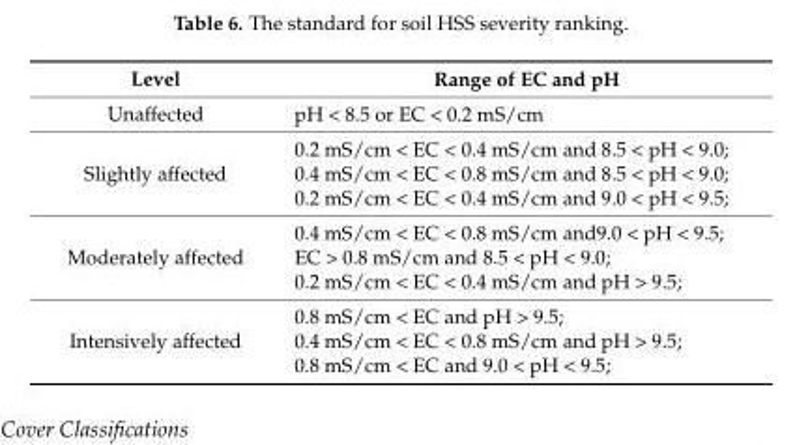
<table><thead><tr><td>Level</td><td>Range of EC and pH</td></tr></thead><tbody><tr><td>Unaffected</td><td>pH &lt; 8.5 or EC &lt; 0.2 mS/cm</td></tr><tr><td>Slightly affected</td><td>0.2 mS/cm &lt; EC &lt; 0.4 mS/cm and 8.5 &lt; pH &lt; 9.0; 0.4 mS/cm &lt; EC &lt; 0.8 mS/cm and 8.5 &lt; pH &lt; 9.0; 0.2 mS/cm &lt; EC &lt; 0.4 mS/cm and 9.0 &lt; pH &lt; 9.5;</td></tr><tr><td>Moderately affected</td><td>0.4 mS/cm &lt; EC &lt; 0.8 mS/cm and9.0 &lt; pH &lt; 9.5; EC &gt; 0.8 mS/cm and 8.5 &lt; pH &lt; 9.0; 0.2 mS/cm &lt; EC &lt; 0.4 mS/cm and pH &gt; 9.5;</td></tr><tr><td>Intensively affected</td><td>0.8 mS/cm &lt; EC and pH &gt; 9.5; 0.4 mS/cm &lt; EC &lt; 0.8 mS/cm and pH &gt; 9.5; 0.8 mS/cm &lt; EC and 9.0 &lt; pH &lt; 9.5;</td></tr></tbody></table>